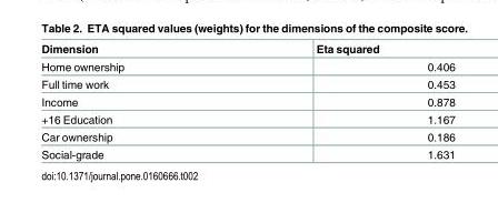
<table><thead><tr><td>Dimension</td><td>Eta squared</td></tr></thead><tbody><tr><td>Home ownership</td><td>0.406</td></tr><tr><td>Full time work</td><td>0.453</td></tr><tr><td>Income</td><td>0.878</td></tr><tr><td>+16 Education</td><td>1.167</td></tr><tr><td>Car ownership</td><td>0.186</td></tr><tr><td>Social-grade</td><td>1.631</td></tr></tbody></table>